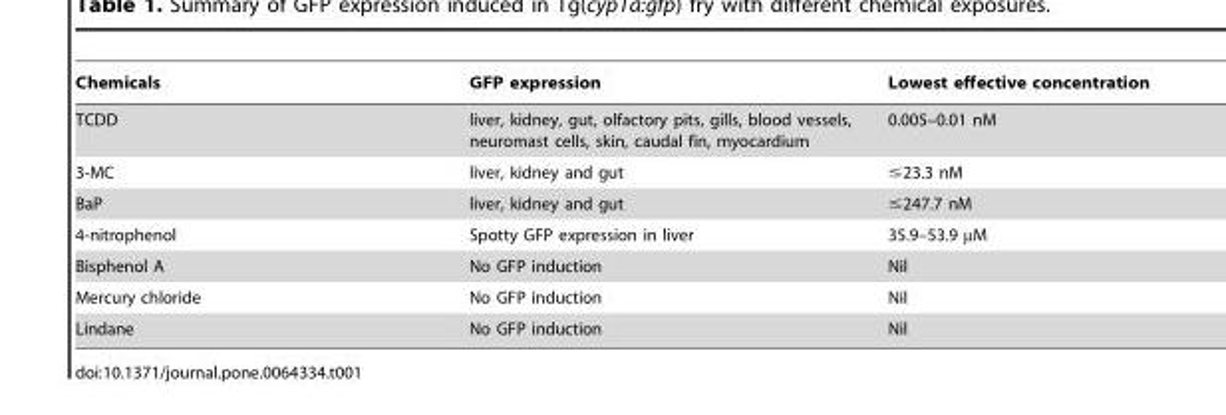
<table><thead><tr><td>Chemicals</td><td>GFP expression</td><td>Lowest effective concentration</td></tr></thead><tbody><tr><td>TCDD</td><td>liver, kidney, gut, olfactory pits, gills, blood vessels, neuromast cells, skin, caudal fin, myocardium</td><td>0.005–0.01 nM</td></tr><tr><td>3-MC</td><td>liver, kidney and gut</td><td>≤23.3 nM</td></tr><tr><td>BaP</td><td>liver, kidney and gut</td><td>≤247.7 nM</td></tr><tr><td>4-nitrophenol</td><td>Spotty GFP expression in liver</td><td>35.9–53.9 µM</td></tr><tr><td>Bisphenol A</td><td>No GFP induction</td><td>Nil</td></tr><tr><td>Mercury chloride</td><td>No GFP induction</td><td>Nil</td></tr><tr><td>Lindane</td><td>No GFP induction</td><td>Nil</td></tr></tbody></table>